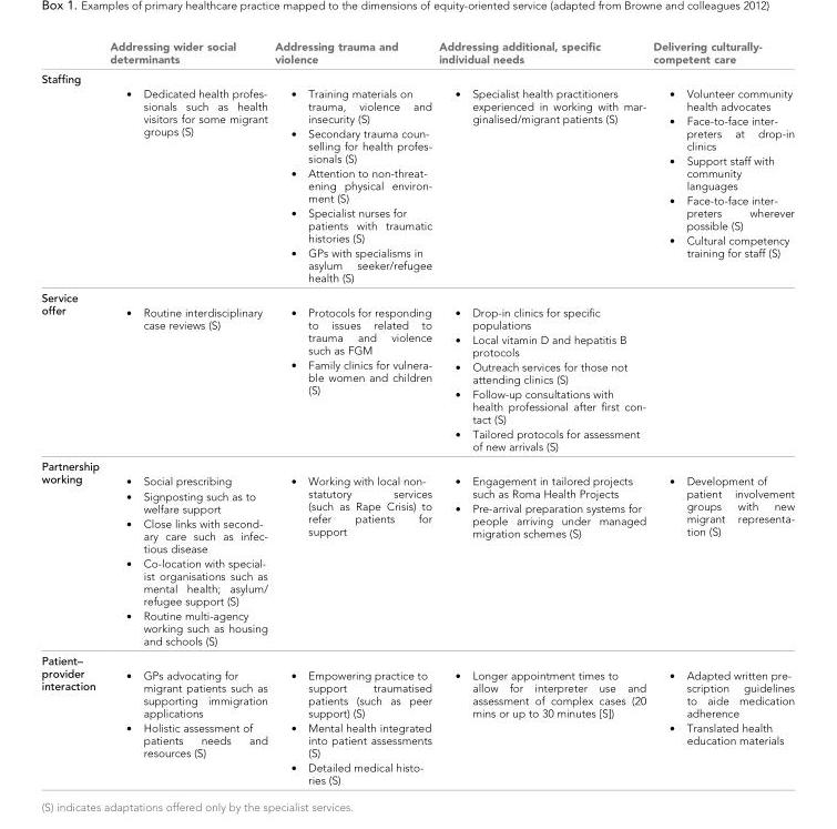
<table><thead><tr><td></td><td>Addressing wider social determinants</td><td>Addressing trauma and violence</td><td>Addressing additional, specific individual needs</td><td>Delivering culturally- competent care</td></tr></thead><tbody><tr><td>Staffing</td><td>. Dedicated health profes- sionals such as health visitors for some migrant groups (S)</td><td>. Training materials on trauma, violence and insecurity (S) . Secondary trauma coun- selling for health profes- sionals (S) . Attention to non-threat- ening physical environ- ment (S) . Specialist nurses for patients with traumatic histories (S) . GPs with specialisms in asylum seeker/refugee health (S)</td><td>. Specialist health practitioners experienced in working with mar- ginalised/migrant patients (S)</td><td>. Volunteer community health advocates . Face-to-face inter- preters at drop-in clinics . Support staff with community languages . Face-to-face inter- preters wherever possible (S) . Cultural competency training for staff (S)</td></tr><tr><td>Service offer</td><td>. Routine interdisciplinary case reviews (S)</td><td>. Protocols for responding to issues related to trauma and violence such as FGM . Family clinics for vulnera- ble women and children (S)</td><td>. Drop-in clinics for specific populations . Local vitamin D and hepatitis B protocols . Outreach services for those not attending clinics (S) . Follow-up consultations with health professional after first con- tact (S) . Tailored protocols for assessment of new arrivals (S)</td><td></td></tr><tr><td>Partnership working</td><td>. Social prescribing . Signposting such as to welfare support . Close links with second- ary care such as infec- tious disease . Co-location with special- ist organisations such as mental health; asylum/ refugee support (S) . Routine multi-agency working such as housing and schools (S)</td><td>. Working with local non- statutory services (such as Rape Crisis) to refer patients for support</td><td>. Engagement in tailored projects such as Roma Health Projects . Pre-arrival preparation systems for people arriving under managed migration schemes (S)</td><td>. Development of patient involvement groups with new migrant representa- tion (S)</td></tr><tr><td>Patient– provider interaction</td><td>. GPs advocating for migrant patients such as supporting immigration applications . Holistic assessment of patients needs and resources (S)</td><td>. Empowering practice to support traumatised patients (such as peer support) (S) . Mental health integrated into patient assessments (S) . Detailed medical histo- ries (S)</td><td>. Longer appointment times to allow for interpreter use and assessment of complex cases (20 mins or up to 30 minutes [S])</td><td>. Adapted written pre- scription guidelines to aide medication adherence . Translated health education materials</td></tr></tbody></table>